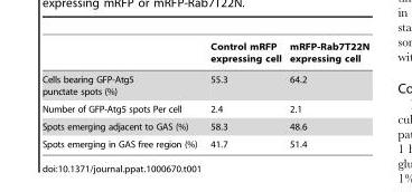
<table><thead><tr><td></td><td>Control mRFP expressing cell</td><td>mRFP-Rab7T22N expressing cell</td></tr></thead><tbody><tr><td>Cells bearing GFP-Atg5 punctate spots (%)</td><td>55.3</td><td>64.2</td></tr><tr><td>Number of GFP-Atg5 spots Per cell</td><td>2.4</td><td>2.1</td></tr><tr><td>Spots emerging adjacent to GAS (%)</td><td>58.3</td><td>48.6</td></tr><tr><td>Spots emerging in GAS free region (%)</td><td>41.7</td><td>51.4</td></tr></tbody></table>